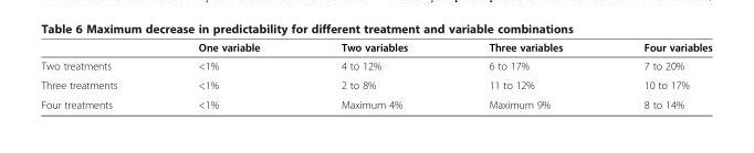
<table><thead><tr><td></td><td>One variable</td><td>Two variables</td><td>Three variables</td><td>Four variables</td></tr></thead><tbody><tr><td>Two treatments</td><td>&lt;1%</td><td>4 to 12%</td><td>6 to 17%</td><td>7 to 20%</td></tr><tr><td>Three treatments</td><td>&lt;1%</td><td>2 to 8%</td><td>11 to 12%</td><td>10 to 17%</td></tr><tr><td>Four treatments</td><td>&lt;1%</td><td>Maximum 4%</td><td>Maximum 9%</td><td>8 to 14%</td></tr></tbody></table>